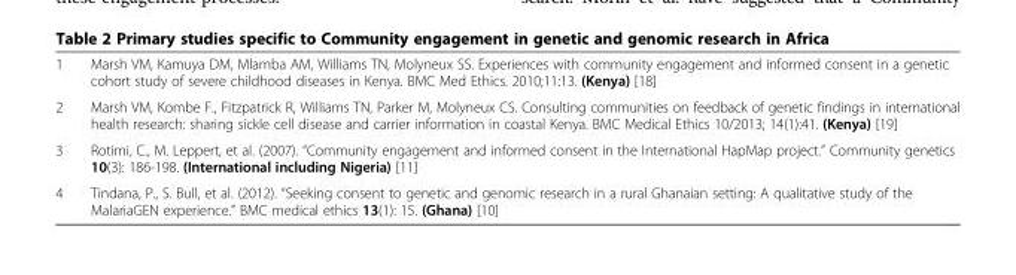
<table><tbody><tr><td>1</td><td>Marsh VM, Kamuya DM, Mlamba AM, Williams TN, Molyneux SS. Experiences with community engagement and informed consent in a genetic cohort study of severe childhood diseases in Kenya. BMC Med Ethics. 2010;11:13. (Kenya) [18]</td></tr><tr><td>2</td><td>Marsh VM, Kombe F., Fitzpatrick R, Williams TN, Parker M, Molyneux CS. Consulting communities on feedback of genetic findings in international health research: sharing sickle cell disease and carrier information in coastal Kenya. BMC Medical Ethics 10/2013; 14(1):41. (Kenya) [19]</td></tr><tr><td>3</td><td>Rotimi, C., M. Leppert, et al. (2007). “Community engagement and informed consent in the International HapMap project.” Community genetics 10(3): 186-198. (International including Nigeria) [11]</td></tr><tr><td>4</td><td>Tindana, P., S. Bull, et al. (2012). “Seeking consent to genetic and genomic research in a rural Ghanaian setting: A qualitative study of the MalariaGEN experience.” BMC medical ethics 13(1): 15. (Ghana) [10]</td></tr></tbody></table>